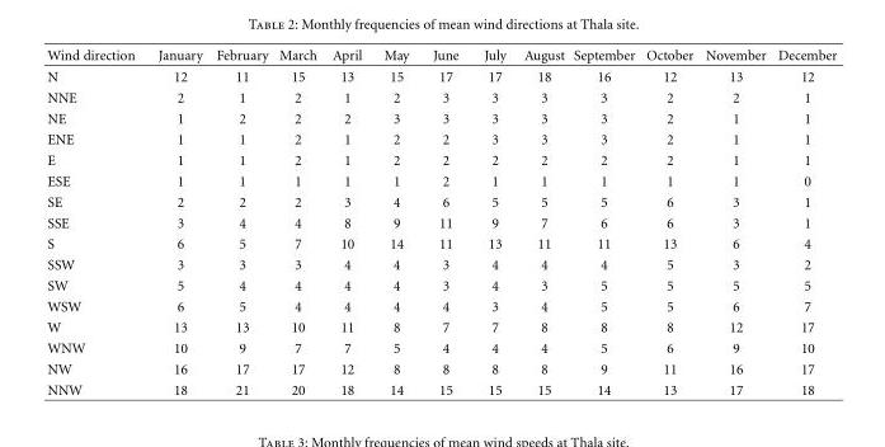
<table><thead><tr><td>Wind direction</td><td>January</td><td>February</td><td>March</td><td>April</td><td>May</td><td>June</td><td>July</td><td>August</td><td>September</td><td>October</td><td>November</td><td>December</td></tr></thead><tbody><tr><td>N</td><td>12</td><td>11</td><td>15</td><td>13</td><td>15</td><td>17</td><td>17</td><td>18</td><td>16</td><td>12</td><td>13</td><td>12</td></tr><tr><td>NNE</td><td>2</td><td>1</td><td>2</td><td>1</td><td>2</td><td>3</td><td>3</td><td>3</td><td>3</td><td>2</td><td>2</td><td>1</td></tr><tr><td>NE</td><td>1</td><td>2</td><td>2</td><td>2</td><td>3</td><td>3</td><td>3</td><td>3</td><td>3</td><td>2</td><td>1</td><td>1</td></tr><tr><td>ENE</td><td>1</td><td>1</td><td>2</td><td>1</td><td>2</td><td>2</td><td>3</td><td>3</td><td>3</td><td>2</td><td>1</td><td>1</td></tr><tr><td>E</td><td>1</td><td>1</td><td>2</td><td>1</td><td>2</td><td>2</td><td>2</td><td>2</td><td>2</td><td>2</td><td>1</td><td>1</td></tr><tr><td>ESE</td><td>1</td><td>1</td><td>1</td><td>1</td><td>1</td><td>2</td><td>1</td><td>1</td><td>1</td><td>1</td><td>1</td><td>0</td></tr><tr><td>SE</td><td>2</td><td>2</td><td>2</td><td>3</td><td>4</td><td>6</td><td>5</td><td>5</td><td>5</td><td>6</td><td>3</td><td>1</td></tr><tr><td>SSE</td><td>3</td><td>4</td><td>4</td><td>8</td><td>9</td><td>11</td><td>9</td><td>7</td><td>6</td><td>6</td><td>3</td><td>1</td></tr><tr><td>S</td><td>6</td><td>5</td><td>7</td><td>10</td><td>14</td><td>11</td><td>13</td><td>11</td><td>11</td><td>13</td><td>6</td><td>4</td></tr><tr><td>SSW</td><td>3</td><td>3</td><td>3</td><td>4</td><td>4</td><td>3</td><td>4</td><td>4</td><td>4</td><td>5</td><td>3</td><td>2</td></tr><tr><td>SW</td><td>5</td><td>4</td><td>4</td><td>4</td><td>4</td><td>3</td><td>4</td><td>3</td><td>5</td><td>5</td><td>5</td><td>5</td></tr><tr><td>WSW</td><td>6</td><td>5</td><td>4</td><td>4</td><td>4</td><td>4</td><td>3</td><td>4</td><td>5</td><td>5</td><td>6</td><td>7</td></tr><tr><td>W</td><td>13</td><td>13</td><td>10</td><td>11</td><td>8</td><td>7</td><td>7</td><td>8</td><td>8</td><td>8</td><td>12</td><td>17</td></tr><tr><td>WNW</td><td>10</td><td>9</td><td>7</td><td>7</td><td>5</td><td>4</td><td>4</td><td>4</td><td>5</td><td>6</td><td>9</td><td>10</td></tr><tr><td>NW</td><td>16</td><td>17</td><td>17</td><td>12</td><td>8</td><td>8</td><td>8</td><td>8</td><td>9</td><td>11</td><td>16</td><td>17</td></tr><tr><td>NNW</td><td>18</td><td>21</td><td>20</td><td>18</td><td>14</td><td>15</td><td>15</td><td>15</td><td>14</td><td>13</td><td>17</td><td>18</td></tr></tbody></table>